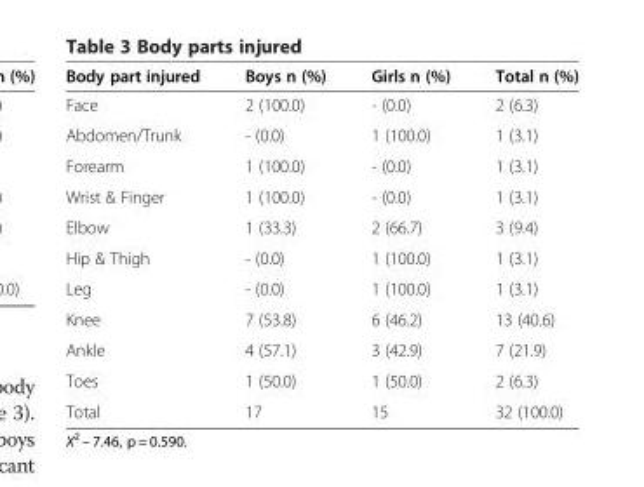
<table><thead><tr><td>Body part injured</td><td>Boys n (%)</td><td>Girls n (%)</td><td>Total n (%)</td></tr></thead><tbody><tr><td>Face</td><td>2 (100.0)</td><td>- (0.0)</td><td>2 (6.3)</td></tr><tr><td>Abdomen/Trunk</td><td>- (0.0)</td><td>1 (100.0)</td><td>1 (3.1)</td></tr><tr><td>Forearm</td><td>1 (100.0)</td><td>- (0.0)</td><td>1 (3.1)</td></tr><tr><td>Wrist &amp; Finger</td><td>1 (100.0)</td><td>- (0.0)</td><td>1 (3.1)</td></tr><tr><td>Elbow</td><td>1 (33.3)</td><td>2 (66.7)</td><td>3 (9.4)</td></tr><tr><td>Hip &amp; Thigh</td><td>- (0.0)</td><td>1 (100.0)</td><td>1 (3.1)</td></tr><tr><td>Leg</td><td>- (0.0)</td><td>1 (100.0)</td><td>1 (3.1)</td></tr><tr><td>Knee</td><td>7 (53.8)</td><td>6 (46.2)</td><td>13 (40.6)</td></tr><tr><td>Ankle</td><td>4 (57.1)</td><td>3 (42.9)</td><td>7 (21.9)</td></tr><tr><td>Toes</td><td>1 (50.0)</td><td>1 (50.0)</td><td>2 (6.3)</td></tr><tr><td>Total</td><td>17</td><td>15</td><td>32 (100.0)</td></tr></tbody></table>